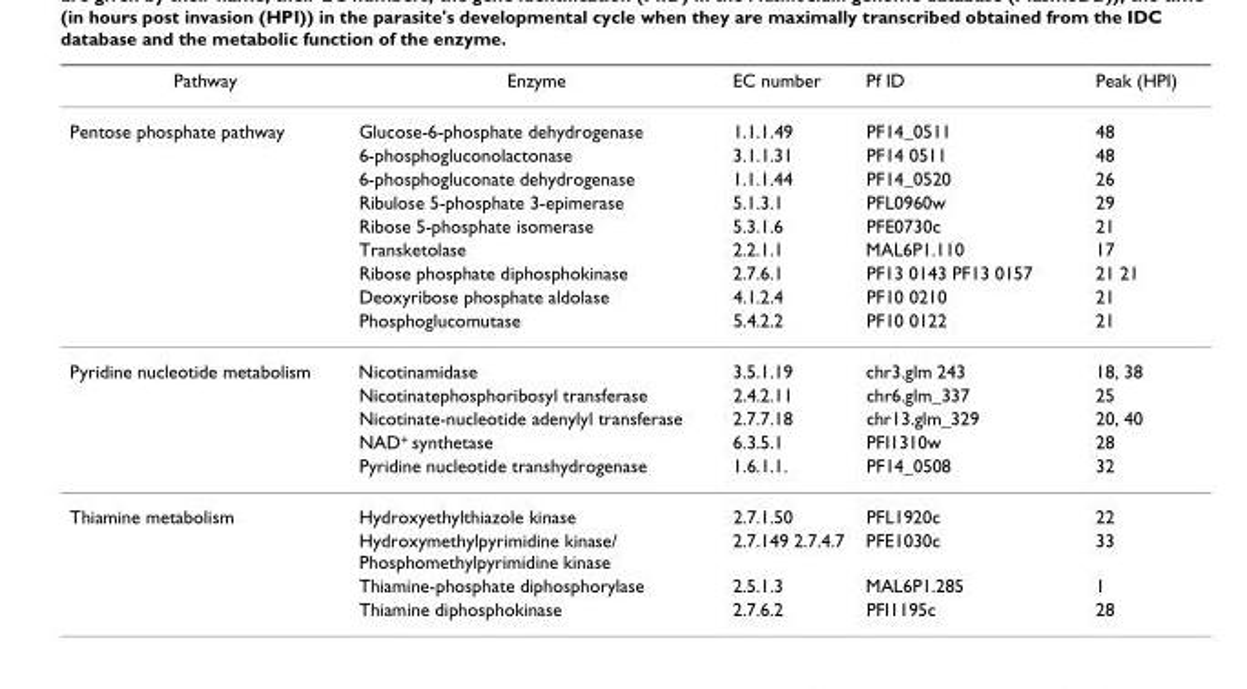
<table><thead><tr><td>Pathway</td><td>Enzyme</td><td>EC number</td><td>Pf ID</td><td>Peak (HPI)</td></tr></thead><tbody><tr><td rowspan="9">Pentose phosphate pathway</td><td>Glucose-6-phosphate dehydrogenase</td><td>1.1.1.49</td><td>PF14_0511</td><td>48</td></tr><tr><td>6-phosphogluconolactonase</td><td>3.1.1.31</td><td>PF14 0511</td><td>48</td></tr><tr><td>6-phosphogluconate dehydrogenase</td><td>1.1.1.44</td><td>PF14_0520</td><td>26</td></tr><tr><td>Ribulose 5-phosphate 3-epimerase</td><td>5.1.3.1</td><td>PFL0960w</td><td>29</td></tr><tr><td>Ribose 5-phosphate isomerase</td><td>5.3.1.6</td><td>PFE0730c</td><td>21</td></tr><tr><td>Transketolase</td><td>2.2.1.1</td><td>MAL6P1.110</td><td>17</td></tr><tr><td>Ribose phosphate diphosphokinase</td><td>2.7.6.1</td><td>PF13 0143 PF13 0157</td><td>21 21</td></tr><tr><td>Deoxyribose phosphate aldolase</td><td>4.1.2.4</td><td>PF10 0210</td><td>21</td></tr><tr><td>Phosphoglucomutase</td><td>5.4.2.2</td><td>PF10 0122</td><td>21</td></tr><tr><td rowspan="5">Pyridine nucleotide metabolism</td><td>Nicotinamidase</td><td>3.5.1.19</td><td>chr3.glm 243</td><td>18, 38</td></tr><tr><td>Nicotinatephosphoribosyl transferase</td><td>2.4.2.11</td><td>chr6.glm_337</td><td>25</td></tr><tr><td>Nicotinate-nucleotide adenylyl transferase</td><td>2.7.7.18</td><td>chr13.glm_329</td><td>20, 40</td></tr><tr><td>NAD<sup>+</sup> synthetase</td><td>6.3.5.1</td><td>PFI1310w</td><td>28</td></tr><tr><td>Pyridine nucleotide transhydrogenase</td><td>1.6.1.1.</td><td>PF14_0508</td><td>32</td></tr><tr><td rowspan="4">Thiamine metabolism</td><td>Hydroxyethylthiazole kinase</td><td>2.7.1.50</td><td>PFL1920c</td><td>22</td></tr><tr><td>Hydroxymethylpyrimidine kinase/ Phosphomethylpyrimidine kinase</td><td>2.7.149 2.7.4.7</td><td>PFE1030c</td><td>33</td></tr><tr><td>Thiamine-phosphate diphosphorylase</td><td>2.5.1.3</td><td>MAL6P1.285</td><td>1</td></tr><tr><td>Thiamine diphosphokinase</td><td>2.7.6.2</td><td>PFI1195c</td><td>28</td></tr></tbody></table>